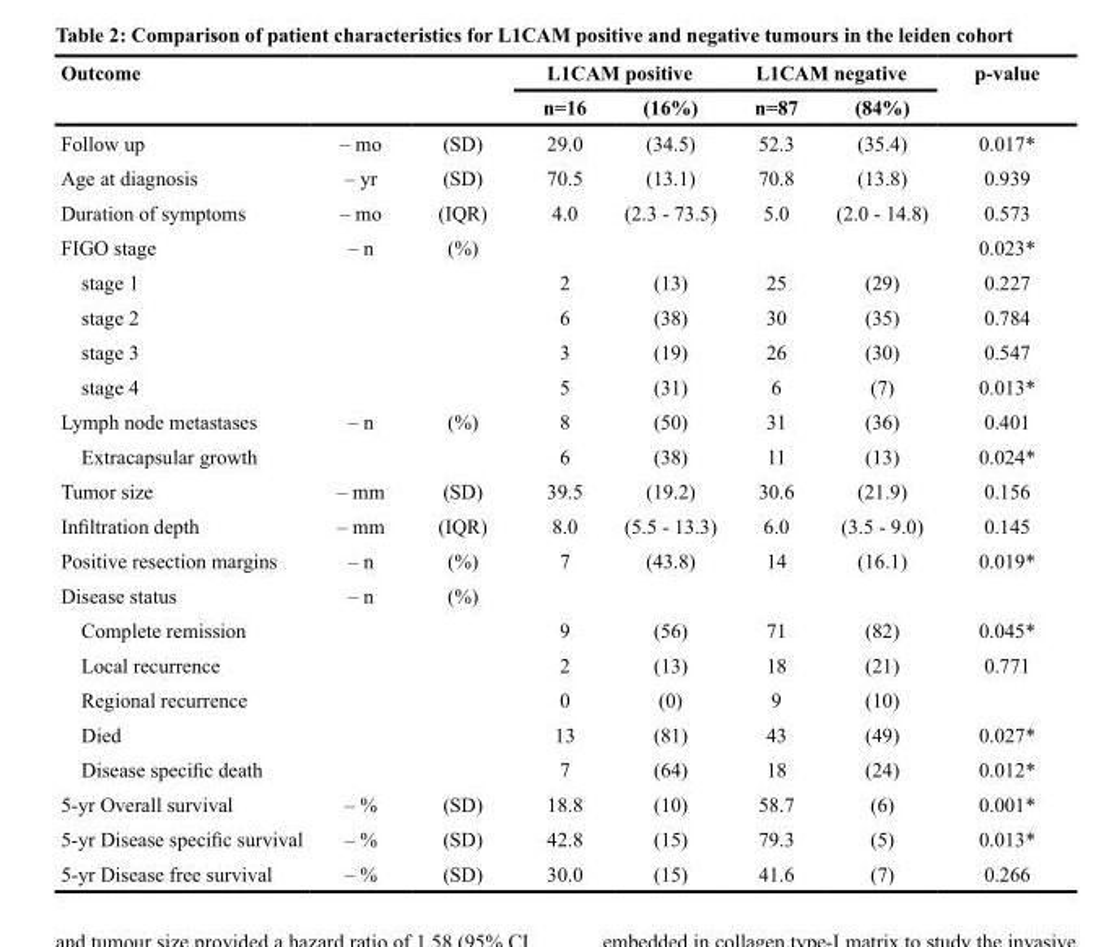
<table><thead><tr><td rowspan="2" colspan="3">Outcome</td><td colspan="2">L1CAM positive</td><td colspan="2">L1CAM negative</td><td rowspan="3">p-value 0.017*</td></tr><tr><td rowspan="2">n=16 29.0</td><td rowspan="2">(16%) (34.5)</td><td rowspan="2">n=87 52.3</td><td rowspan="2">(84%) (35.4)</td></tr><tr><td>Follow up</td><td>– mo</td><td>(SD)</td></tr></thead><tbody><tr><td>Age at diagnosis</td><td>– yr</td><td>(SD)</td><td>70.5</td><td>(13.1)</td><td>70.8</td><td>(13.8)</td><td>0.939</td></tr><tr><td>Duration of symptoms</td><td>– mo</td><td>(IQR)</td><td>4.0</td><td>(2.3 - 73.5)</td><td>5.0</td><td>(2.0 - 14.8)</td><td>0.573</td></tr><tr><td>FIGO stage</td><td>– n</td><td>(%)</td><td></td><td></td><td></td><td></td><td>0.023*</td></tr><tr><td>stage 1</td><td></td><td></td><td>2</td><td>(13)</td><td>25</td><td>(29)</td><td>0.227</td></tr><tr><td>stage 2</td><td></td><td></td><td>6</td><td>(38)</td><td>30</td><td>(35)</td><td>0.784</td></tr><tr><td>stage 3</td><td></td><td></td><td>3</td><td>(19)</td><td>26</td><td>(30)</td><td>0.547</td></tr><tr><td>stage 4</td><td></td><td></td><td>5</td><td>(31)</td><td>6</td><td>(7)</td><td>0.013*</td></tr><tr><td>Lymph node metastases</td><td>– n</td><td>(%)</td><td>8</td><td>(50)</td><td>31</td><td>(36)</td><td>0.401</td></tr><tr><td>Extracapsular growth</td><td></td><td></td><td>6</td><td>(38)</td><td>11</td><td>(13)</td><td>0.024*</td></tr><tr><td>Tumor size</td><td>– mm</td><td>(SD)</td><td>39.5</td><td>(19.2)</td><td>30.6</td><td>(21.9)</td><td>0.156</td></tr><tr><td>Infiltration depth</td><td>– mm</td><td>(IQR)</td><td>8.0</td><td>(5.5 - 13.3)</td><td>6.0</td><td>(3.5 - 9.0)</td><td>0.145</td></tr><tr><td>Positive resection margins</td><td>– n</td><td>(%)</td><td>7</td><td>(43.8)</td><td>14</td><td>(16.1)</td><td>0.019*</td></tr><tr><td>Disease status</td><td>– n</td><td>(%)</td><td></td><td></td><td></td><td></td><td></td></tr><tr><td>Complete remission</td><td></td><td></td><td>9</td><td>(56)</td><td>71</td><td>(82)</td><td>0.045*</td></tr><tr><td>Local recurrence</td><td></td><td></td><td>2</td><td>(13)</td><td>18</td><td>(21)</td><td>0.771</td></tr><tr><td>Regional recurrence</td><td></td><td></td><td>0</td><td>(0)</td><td>9</td><td>(10)</td><td></td></tr><tr><td>Died</td><td></td><td></td><td>13</td><td>(81)</td><td>43</td><td>(49)</td><td>0.027*</td></tr><tr><td>Disease specific death</td><td></td><td></td><td>7</td><td>(64)</td><td>18</td><td>(24)</td><td>0.012*</td></tr><tr><td>5-yr Overall survival</td><td>– %</td><td>(SD)</td><td>18.8</td><td>(10)</td><td>58.7</td><td>(6)</td><td>0.001*</td></tr><tr><td>5-yr Disease specific survival</td><td>– %</td><td>(SD)</td><td>42.8</td><td>(15)</td><td>79.3</td><td>(5)</td><td>0.013*</td></tr><tr><td>5-yr Disease free survival</td><td>– %</td><td>(SD)</td><td>30.0</td><td>(15)</td><td>41.6</td><td>(7)</td><td>0.266</td></tr></tbody></table>